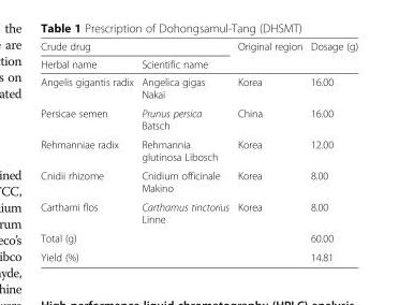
<table><thead><tr><td colspan="2">Crude drug</td><td rowspan="2">Original region</td><td rowspan="2">Dosage (g)</td></tr><tr><td>Herbal name</td><td>Scientific name</td></tr></thead><tbody><tr><td>Angelis gigantis radix</td><td>Angelica gigas Nakai</td><td>Korea</td><td>16.00</td></tr><tr><td>Persicae semen</td><td>Prunus persica Batsch</td><td>China</td><td>16.00</td></tr><tr><td>Rehmanniae radix</td><td>Rehmannia glutinosa Libosch</td><td>Korea</td><td>12.00</td></tr><tr><td>Cnidii rhizome</td><td>Cnidium officinale Makino</td><td>Korea</td><td>8.00</td></tr><tr><td>Carthami flos</td><td>Carthamus tinctorius Linne</td><td>Korea</td><td>8.00</td></tr><tr><td colspan="3">Total (g)</td><td>60.00</td></tr><tr><td colspan="3">Yield (%)</td><td>14.81</td></tr></tbody></table>